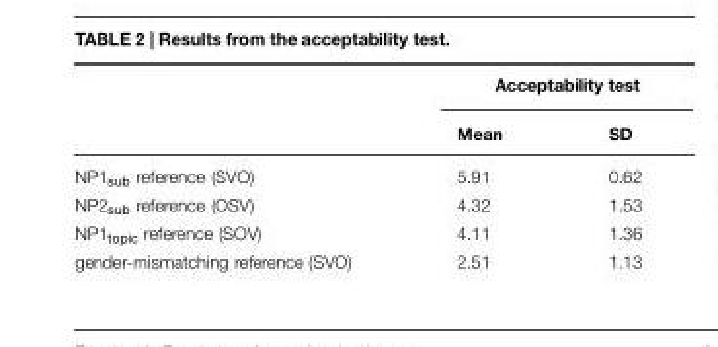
<table><thead><tr><td rowspan="2"></td><td colspan="2">Acceptability test</td></tr><tr><td>Mean</td><td>SD</td></tr></thead><tbody><tr><td>NP1<sub>sub</sub> reference (SVO)</td><td>5.91</td><td>0.62</td></tr><tr><td>NP2<sub>sub</sub> reference (OSV)</td><td>4.32</td><td>1.53</td></tr><tr><td>NP1<sub>topic</sub> reference (SOV)</td><td>4.11</td><td>1.36</td></tr><tr><td>gender-mismatching reference (SVO)</td><td>2.51</td><td>1.13</td></tr></tbody></table>